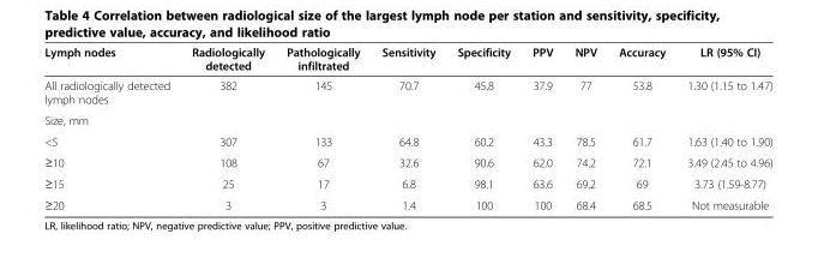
<table><thead><tr><td>Lymph nodes</td><td>Radiologically detected</td><td>Pathologically infiltrated</td><td>Sensitivity</td><td>Specificity</td><td>PPV</td><td>NPV</td><td>Accuracy</td><td>LR (95% CI)</td></tr></thead><tbody><tr><td>All radiologically detected lymph nodes</td><td>382</td><td>145</td><td>70.7</td><td>45.8</td><td>37.9</td><td>77</td><td>53.8</td><td>1.30 (1.15 to 1.47)</td></tr><tr><td colspan="9">Size, mm</td></tr><tr><td>&lt;5</td><td>307</td><td>133</td><td>64.8</td><td>60.2</td><td>43.3</td><td>78.5</td><td>61.7</td><td>1.63 (1.40 to 1.90)</td></tr><tr><td>≥10</td><td>108</td><td>67</td><td>32.6</td><td>90.6</td><td>62.0</td><td>74.2</td><td>72.1</td><td>3.49 (2.45 to 4.96)</td></tr><tr><td>≥15</td><td>25</td><td>17</td><td>6.8</td><td>98.1</td><td>63.6</td><td>69.2</td><td>69</td><td>3.73 (1.59-8.77)</td></tr><tr><td>≥20</td><td>3</td><td>3</td><td>1.4</td><td>100</td><td>100</td><td>68.4</td><td>68.5</td><td>Not measurable</td></tr></tbody></table>